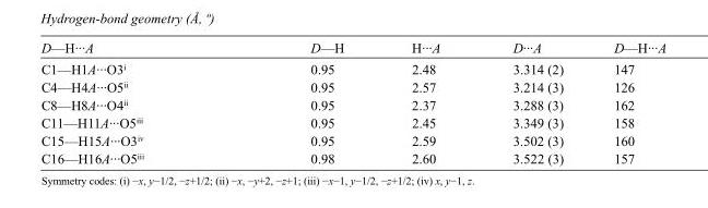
<table><tbody><tr><td>D—H···A</td><td>D—H</td><td>H···A</td><td>D···A</td><td>D—H···A</td></tr><tr><td>C1—H1A···O3<sup>i</sup></td><td>0.95</td><td>2.48</td><td>3.314 (2)</td><td>147</td></tr><tr><td>C4—H4A···O5<sup>ii</sup></td><td>0.95</td><td>2.57</td><td>3.214 (3)</td><td>126</td></tr><tr><td>C8—H8A···O4<sup>ii</sup></td><td>0.95</td><td>2.37</td><td>3.288 (3)</td><td>162</td></tr><tr><td>C11—H11A···O5<sup>iii</sup></td><td>0.95</td><td>2.45</td><td>3.349 (3)</td><td>158</td></tr><tr><td>C15—H15A···O3<sup>iv</sup></td><td>0.95</td><td>2.59</td><td>3.502 (3)</td><td>160</td></tr><tr><td>C16—H16A···O5<sup>iii</sup></td><td>0.98</td><td>2.60</td><td>3.522 (3)</td><td>157</td></tr></tbody></table>